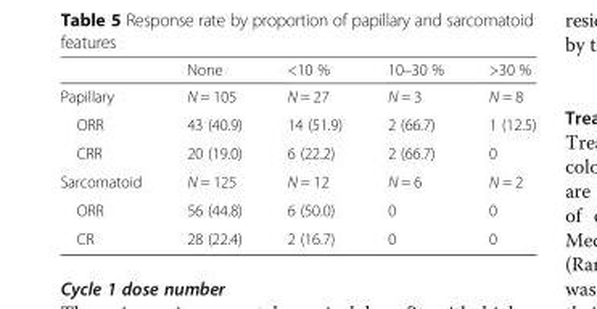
<table><thead><tr><td></td><td>None</td><td>&lt;10 %</td><td>10–30 %</td><td>&gt;30 %</td></tr></thead><tbody><tr><td>Papillary</td><td>N = 105</td><td>N = 27</td><td>N = 3</td><td>N = 8</td></tr><tr><td>ORR</td><td>43 (40.9)</td><td>14 (51.9)</td><td>2 (66.7)</td><td>1 (12.5)</td></tr><tr><td>CRR</td><td>20 (19.0)</td><td>6 (22.2)</td><td>2 (66.7)</td><td>0</td></tr><tr><td>Sarcomatoid</td><td>N = 125</td><td>N = 12</td><td>N = 6</td><td>N = 2</td></tr><tr><td>ORR</td><td>56 (44.8)</td><td>6 (50.0)</td><td>0</td><td>0</td></tr><tr><td>CR</td><td>28 (22.4)</td><td>2 (16.7)</td><td>0</td><td>0</td></tr></tbody></table>